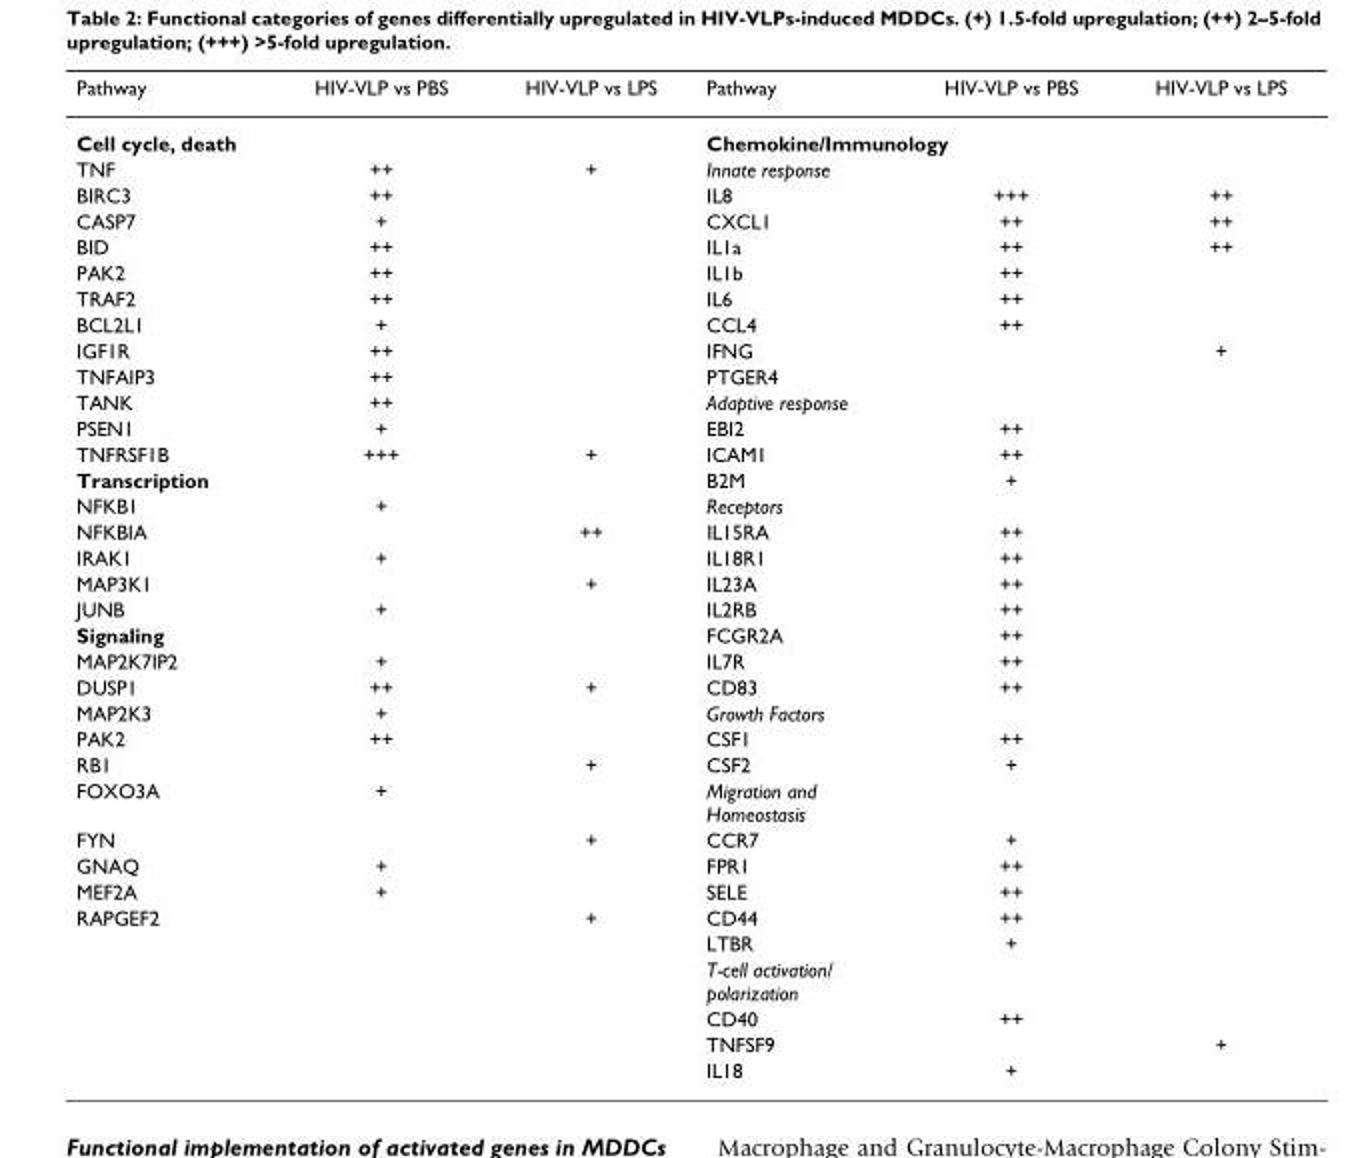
<table><thead><tr><td>Pathway</td><td>HIV-VLP vs PBS</td><td>HIV-VLP vs LPS</td><td>Pathway</td><td>HIV-VLP vs PBS</td><td>HIV-VLP vs LPS</td></tr></thead><tbody><tr><td colspan="3">Cell cycle, death</td><td colspan="3">Chemokine/Immunology</td></tr><tr><td>TNF</td><td>++</td><td>+</td><td>Innate response</td><td></td><td></td></tr><tr><td>BIRC3</td><td>++</td><td></td><td>IL8</td><td>+++</td><td>++</td></tr><tr><td>CASP7</td><td>+</td><td></td><td>CXCL1</td><td>++</td><td>++</td></tr><tr><td>BID</td><td>++</td><td></td><td>IL1a</td><td>++</td><td>++</td></tr><tr><td>PAK2</td><td>++</td><td></td><td>IL1b</td><td>++</td><td></td></tr><tr><td>TRAF2</td><td>++</td><td></td><td>IL6</td><td>++</td><td></td></tr><tr><td>BCL2L1</td><td>+</td><td></td><td>CCL4</td><td>++</td><td></td></tr><tr><td>IGF1R</td><td>++</td><td></td><td>IFNG</td><td></td><td>+</td></tr><tr><td>TNFAIP3</td><td>++</td><td></td><td>PTGER4</td><td></td><td></td></tr><tr><td>TANK</td><td>++</td><td></td><td>Adaptive response</td><td></td><td></td></tr><tr><td>PSEN1</td><td>+</td><td></td><td>EBI2</td><td>++</td><td></td></tr><tr><td>TNFRSF1B</td><td>+++</td><td>+</td><td>ICAM1</td><td>++</td><td></td></tr><tr><td>Transcription</td><td></td><td></td><td>B2M</td><td>+</td><td></td></tr><tr><td>NFKB1</td><td>+</td><td></td><td>Receptors</td><td></td><td></td></tr><tr><td>NFKBIA</td><td></td><td>++</td><td>IL15RA</td><td>++</td><td></td></tr><tr><td>IRAK1</td><td>+</td><td></td><td>IL18R1</td><td>++</td><td></td></tr><tr><td>MAP3K1</td><td></td><td>+</td><td>IL23A</td><td>++</td><td></td></tr><tr><td>JUNB</td><td>+</td><td></td><td>IL2RB</td><td>++</td><td></td></tr><tr><td>Signaling</td><td></td><td></td><td>FCGR2A</td><td>++</td><td></td></tr><tr><td>MAP2K7IP2</td><td>+</td><td></td><td>IL7R</td><td>++</td><td></td></tr><tr><td>DUSP1</td><td>++</td><td>+</td><td>CD83</td><td>++</td><td></td></tr><tr><td>MAP2K3</td><td>+</td><td></td><td>Growth Factors</td><td></td><td></td></tr><tr><td>PAK2</td><td>++</td><td></td><td>CSF1</td><td>++</td><td></td></tr><tr><td>RB1</td><td></td><td>+</td><td>CSF2</td><td>+</td><td></td></tr><tr><td>FOXO3A</td><td>+</td><td></td><td>Migration and Homeostasis</td><td></td><td></td></tr><tr><td>FYN</td><td></td><td>+</td><td>CCR7</td><td>+</td><td></td></tr><tr><td>GNAQ</td><td>+</td><td></td><td>FPR1</td><td>++</td><td></td></tr><tr><td>MEF2A</td><td>+</td><td></td><td>SELE</td><td>++</td><td></td></tr><tr><td rowspan="6">RAPGEF2</td><td></td><td>+</td><td>CD44</td><td>++</td><td></td></tr><tr><td></td><td></td><td>LTBR</td><td>+</td><td></td></tr><tr><td></td><td></td><td>T-cell activation/ polarization</td><td></td><td></td></tr><tr><td></td><td></td><td>CD40</td><td>++</td><td></td></tr><tr><td></td><td></td><td>TNFSF9</td><td></td><td>+</td></tr><tr><td></td><td></td><td>IL18</td><td>+</td><td></td></tr></tbody></table>